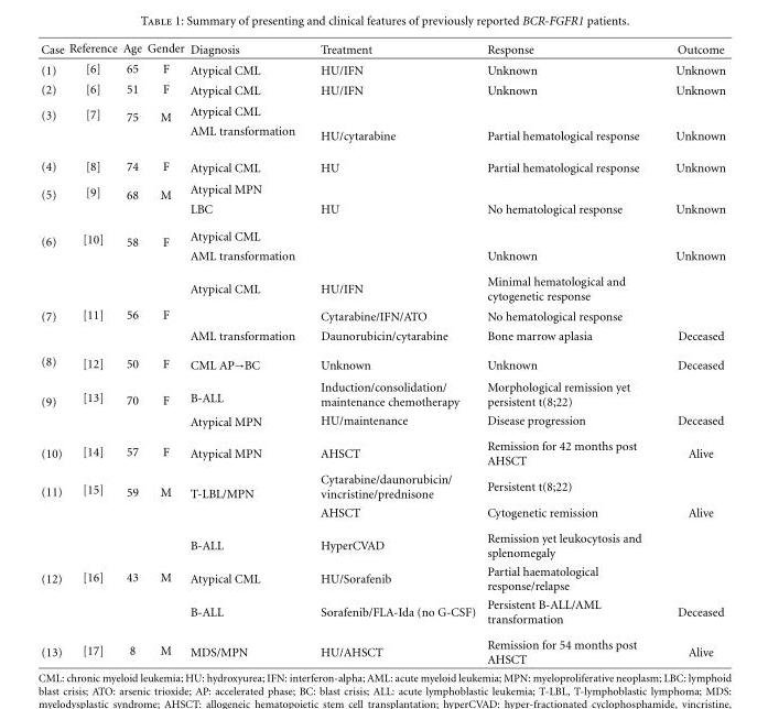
<table><thead><tr><td>Case</td><td>Reference</td><td>Age</td><td>Gender</td><td>Diagnosis</td><td>Treatment</td><td>Response</td><td>Outcome</td></tr></thead><tbody><tr><td>(1)</td><td>[6]</td><td>65</td><td>F</td><td>Atypical CML</td><td>HU/IFN</td><td>Unknown</td><td>Unknown</td></tr><tr><td>(2)</td><td>[6]</td><td>51</td><td>F</td><td>Atypical CML</td><td>HU/IFN</td><td>Unknown</td><td>Unknown</td></tr><tr><td rowspan="2">(3)</td><td rowspan="2">[7]</td><td rowspan="2">75</td><td rowspan="2">M</td><td>Atypical CML</td><td></td><td></td><td></td></tr><tr><td>AML transformation</td><td>HU/cytarabine</td><td>Partial hematological response</td><td>Unknown</td></tr><tr><td>(4)</td><td>[8]</td><td>74</td><td>F</td><td>Atypical CML</td><td>HU</td><td>Partial hematological response</td><td>Unknown</td></tr><tr><td rowspan="2">(5)</td><td rowspan="2">[9]</td><td rowspan="2">68</td><td rowspan="2">M</td><td>Atypical MPN</td><td></td><td></td><td></td></tr><tr><td>LBC</td><td>HU</td><td>No hematological response</td><td>Unknown</td></tr><tr><td rowspan="3">(6)</td><td rowspan="2">[10]</td><td rowspan="2">58</td><td rowspan="2">F</td><td>Atypical CML</td><td></td><td></td><td></td></tr><tr><td>AML transformation</td><td></td><td>Unknown</td><td>Unknown</td></tr><tr><td></td><td></td><td></td><td>Atypical CML</td><td>HU/IFN</td><td>Minimal hematological and cytogenetic response</td><td></td></tr><tr><td rowspan="2">(7)</td><td>[11]</td><td>56</td><td>F</td><td></td><td>Cytarabine/IFN/ATO</td><td>No hematological response</td><td></td></tr><tr><td></td><td></td><td></td><td>AML transformation</td><td>Daunorubicin/cytarabine</td><td>Bone marrow aplasia</td><td>Deceased</td></tr><tr><td>(8)</td><td>[12]</td><td>50</td><td>F</td><td>CML AP→BC</td><td>Unknown</td><td>Unknown</td><td>Deceased</td></tr><tr><td rowspan="2">(9)</td><td rowspan="2">[13]</td><td rowspan="2">70</td><td rowspan="2">F</td><td>B-ALL</td><td>Induction/consolidation/ maintenance chemotherapy</td><td>Morphological remission yet persistent t(8;22)</td><td></td></tr><tr><td>Atypical MPN</td><td>HU/maintenance</td><td>Disease progression</td><td>Deceased</td></tr><tr><td>(10)</td><td>[14]</td><td>57</td><td>F</td><td>Atypical MPN</td><td>AHSCT</td><td>Remission for 42 months post AHSCT</td><td>Alive</td></tr><tr><td rowspan="3">(11)</td><td rowspan="2">[15]</td><td rowspan="2">59</td><td rowspan="2">M</td><td>T-LBL/MPN</td><td>Cytarabine/daunorubicin/ vincristine/prednisone</td><td>Persistent t(8;22)</td><td></td></tr><tr><td></td><td>AHSCT</td><td>Cytogenetic remission</td><td>Alive</td></tr><tr><td></td><td></td><td></td><td>B-ALL</td><td>HyperCVAD</td><td>Remission yet leukocytosis and splenomegaly</td><td></td></tr><tr><td rowspan="2">(12)</td><td>[16]</td><td>43</td><td>M</td><td>Atypical CML</td><td>HU/Sorafenib</td><td>Partial haematological response/relapse</td><td></td></tr><tr><td></td><td></td><td></td><td>B-ALL</td><td>Sorafenib/FLA-Ida (no G-CSF)</td><td>Persistent B-ALL/AML transformation</td><td>Deceased</td></tr><tr><td>(13)</td><td>[17]</td><td>8</td><td>M</td><td>MDS/MPN</td><td>HU/AHSCT</td><td>Remission for 54 months post AHSCT</td><td>Alive</td></tr></tbody></table>